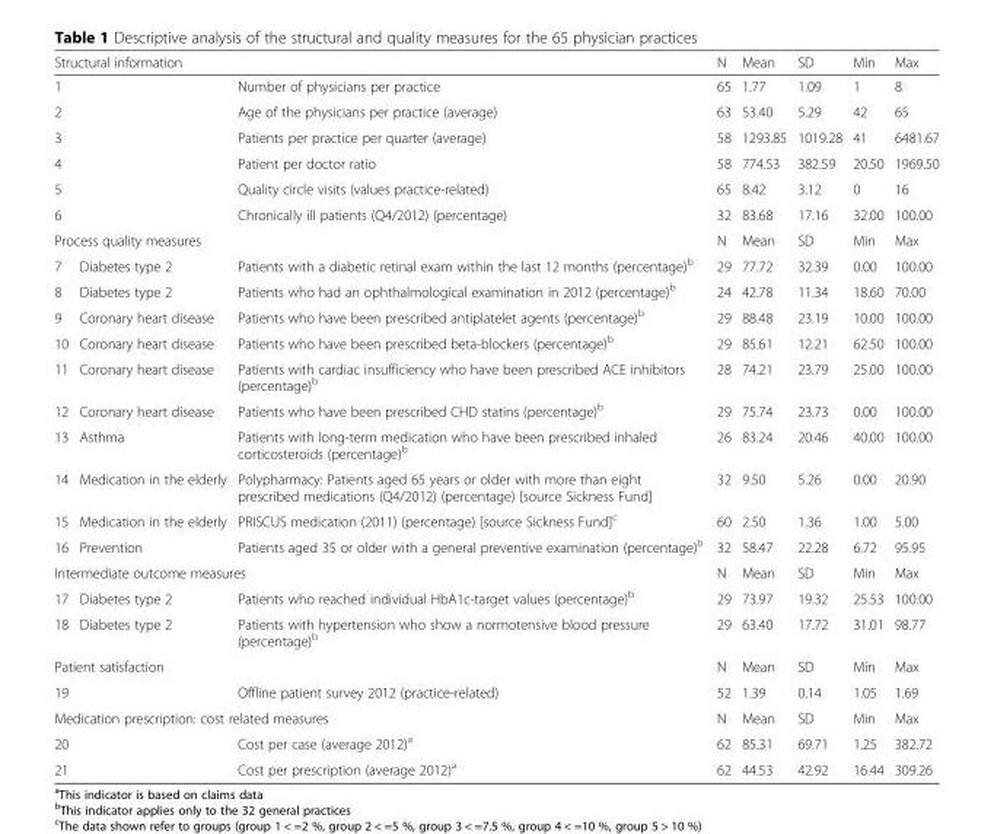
<table><thead><tr><td colspan="3">Structural information</td><td rowspan="2">N 65</td><td rowspan="2">Mean 1.77</td><td rowspan="2">SD 1.09</td><td rowspan="2">Min 1</td><td rowspan="2">Max 8</td></tr><tr><td>1</td><td></td><td>Number of physicians per practice</td></tr></thead><tbody><tr><td>2</td><td></td><td>Age of the physicians per practice (average)</td><td>63</td><td>53.40</td><td>5.29</td><td>42</td><td>65</td></tr><tr><td>3</td><td></td><td>Patients per practice per quarter (average)</td><td>58</td><td>1293.85</td><td>1019.28</td><td>41</td><td>6481.67</td></tr><tr><td>4</td><td></td><td>Patient per doctor ratio</td><td>58</td><td>774.53</td><td>382.59</td><td>20.50</td><td>1969.50</td></tr><tr><td>5</td><td></td><td>Quality circle visits (values practice-related)</td><td>65</td><td>8.42</td><td>3.12</td><td>0</td><td>16</td></tr><tr><td>6</td><td></td><td>Chronically ill patients (Q4/2012) (percentage)</td><td>32</td><td>83.68</td><td>17.16</td><td>32.00</td><td>100.00</td></tr><tr><td colspan="3">Process quality measures</td><td>N</td><td>Mean</td><td>SD</td><td>Min</td><td>Max</td></tr><tr><td>7</td><td>Diabetes type 2</td><td>Patients with a diabetic retinal exam within the last 12 months (percentage)<sup>b</sup></td><td>29</td><td>77.72</td><td>32.39</td><td>0.00</td><td>100.00</td></tr><tr><td>8</td><td>Diabetes type 2</td><td>Patients who had an ophthalmological examination in 2012 (percentage)<sup>b</sup></td><td>24</td><td>42.78</td><td>11.34</td><td>18.60</td><td>70.00</td></tr><tr><td>9</td><td>Coronary heart disease</td><td>Patients who have been prescribed antiplatelet agents (percentage)<sup>b</sup></td><td>29</td><td>88.48</td><td>23.19</td><td>10.00</td><td>100.00</td></tr><tr><td>10</td><td>Coronary heart disease</td><td>Patients who have been prescribed beta-blockers (percentage)<sup>b</sup></td><td>29</td><td>85.61</td><td>12.21</td><td>62.50</td><td>100.00</td></tr><tr><td>11</td><td>Coronary heart disease</td><td>Patients with cardiac insufficiency who have been prescribed ACE inhibitors (percentage)<sup>b</sup></td><td>28</td><td>74.21</td><td>23.79</td><td>25.00</td><td>100.00</td></tr><tr><td>12</td><td>Coronary heart disease</td><td>Patients who have been prescribed CHD statins (percentage)<sup>b</sup></td><td>29</td><td>75.74</td><td>23.73</td><td>0.00</td><td>100.00</td></tr><tr><td>13</td><td>Asthma</td><td>Patients with long-term medication who have been prescribed inhaled corticosteroids (percentage)<sup>b</sup></td><td>26</td><td>83.24</td><td>20.46</td><td>40.00</td><td>100.00</td></tr><tr><td>14</td><td>Medication in the elderly</td><td>Polypharmacy: Patients aged 65 years or older with more than eight prescribed medications (Q4/2012) (percentage) [source Sickness Fund]</td><td>32</td><td>9.50</td><td>5.26</td><td>0.00</td><td>20.90</td></tr><tr><td>15</td><td>Medication in the elderly</td><td>PRISCUS medication (2011) (percentage) [source Sickness Fund]<sup>c</sup></td><td>60</td><td>2.50</td><td>1.36</td><td>1.00</td><td>5.00</td></tr><tr><td>16</td><td>Prevention</td><td>Patients aged 35 or older with a general preventive examination (percentage)<sup>b</sup></td><td>32</td><td>58.47</td><td>22.28</td><td>6.72</td><td>95.95</td></tr><tr><td colspan="3">Intermediate outcome measures</td><td>N</td><td>Mean</td><td>SD</td><td>Min</td><td>Max</td></tr><tr><td>17</td><td>Diabetes type 2</td><td>Patients who reached individual HbA1c-target values (percentage)<sup>b</sup></td><td>29</td><td>73.97</td><td>19.32</td><td>25.53</td><td>100.00</td></tr><tr><td>18</td><td>Diabetes type 2</td><td>Patients with hypertension who show a normotensive blood pressure (percentage)<sup>b</sup></td><td>29</td><td>63.40</td><td>17.72</td><td>31.01</td><td>98.77</td></tr><tr><td colspan="3">Patient satisfaction</td><td>N</td><td>Mean</td><td>SD</td><td>Min</td><td>Max</td></tr><tr><td>19</td><td></td><td>Offline patient survey 2012 (practice-related)</td><td>52</td><td>1.39</td><td>0.14</td><td>1.05</td><td>1.69</td></tr><tr><td colspan="3">Medication prescription: cost related measures</td><td>N</td><td>Mean</td><td>SD</td><td>Min</td><td>Max</td></tr><tr><td>20</td><td></td><td>Cost per case (average 2012)<sup>a</sup></td><td>62</td><td>85.31</td><td>69.71</td><td>1.25</td><td>382.72</td></tr><tr><td>21</td><td></td><td>Cost per prescription (average 2012)<sup>a</sup></td><td>62</td><td>44.53</td><td>42.92</td><td>16.44</td><td>309.26</td></tr></tbody></table>